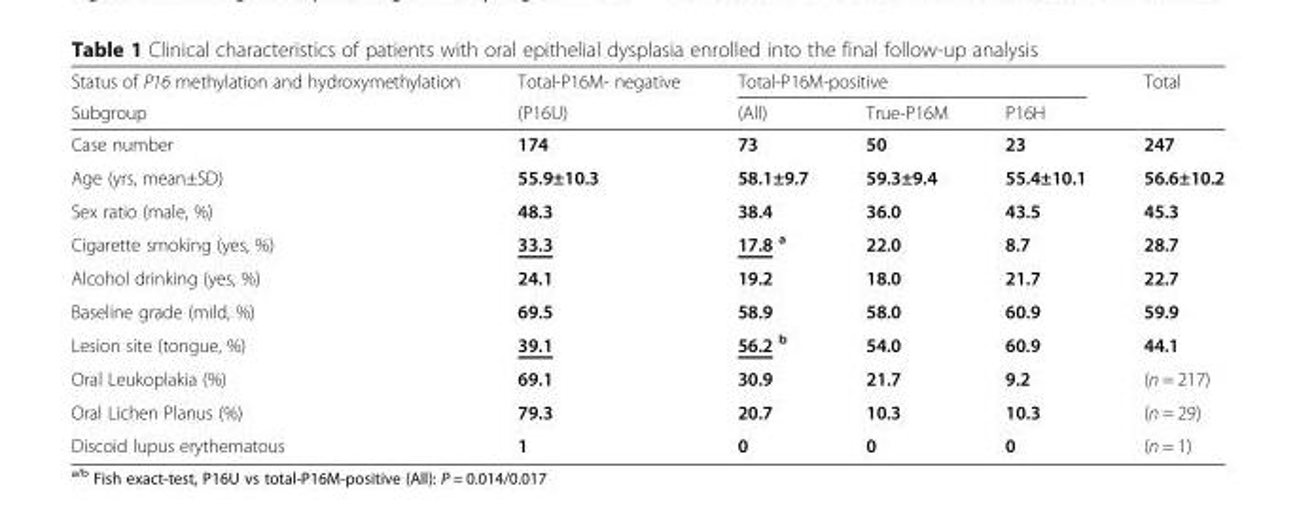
<table><thead><tr><td rowspan="2">Status of P16 methylation and hydroxymethylation Subgroup</td><td rowspan="2">Total-P16M- negative (P16U)</td><td colspan="3">Total-P16M-positive</td><td rowspan="2">Total</td></tr><tr><td>(All)</td><td>True-P16M</td><td>P16H</td></tr></thead><tbody><tr><td>Case number</td><td>174</td><td>73</td><td>50</td><td>23</td><td>247</td></tr><tr><td>Age (yrs, mean±SD)</td><td>55.9±10.3</td><td>58.1±9.7</td><td>59.3±9.4</td><td>55.4±10.1</td><td>56.6±10.2</td></tr><tr><td>Sex ratio (male, %)</td><td>48.3</td><td>38.4</td><td>36.0</td><td>43.5</td><td>45.3</td></tr><tr><td>Cigarette smoking (yes, %)</td><td>33.3</td><td>17.8 <sup>a</sup></td><td>22.0</td><td>8.7</td><td>28.7</td></tr><tr><td>Alcohol drinking (yes, %)</td><td>24.1</td><td>19.2</td><td>18.0</td><td>21.7</td><td>22.7</td></tr><tr><td>Baseline grade (mild, %)</td><td>69.5</td><td>58.9</td><td>58.0</td><td>60.9</td><td>59.9</td></tr><tr><td>Lesion site (tongue, %)</td><td>39.1</td><td>56.2 <sup>b</sup></td><td>54.0</td><td>60.9</td><td>44.1</td></tr><tr><td>Oral Leukoplakia (%)</td><td>69.1</td><td>30.9</td><td>21.7</td><td>9.2</td><td>(n = 217)</td></tr><tr><td>Oral Lichen Planus (%)</td><td>79.3</td><td>20.7</td><td>10.3</td><td>10.3</td><td>(n = 29)</td></tr><tr><td>Discoid lupus erythematous</td><td>1</td><td>0</td><td>0</td><td>0</td><td>(n = 1)</td></tr></tbody></table>